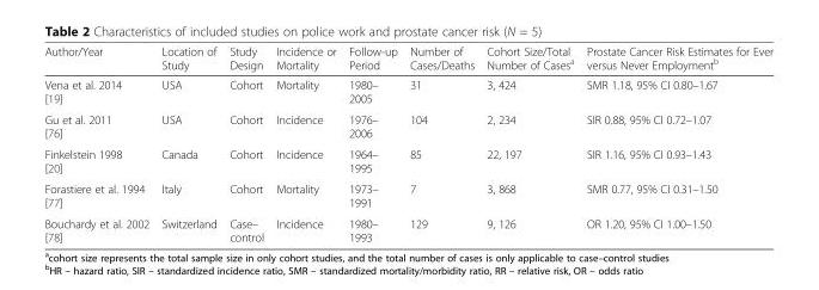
<table><thead><tr><td>Author/Year</td><td>Location of Study</td><td>Study Design</td><td>Incidence or Mortality</td><td>Follow-up Period</td><td>Number of Cases/Deaths</td><td>Cohort Size/Total Number of Cases<sup>a</sup></td><td>Prostate Cancer Risk Estimates for Ever versus Never Employment<sup>b</sup></td></tr></thead><tbody><tr><td>Vena et al. 2014 [19]</td><td>USA</td><td>Cohort</td><td>Mortality</td><td>1980– 2005</td><td>31</td><td>3, 424</td><td>SMR 1.18, 95% CI 0.80–1.67</td></tr><tr><td>Gu et al. 2011 [76]</td><td>USA</td><td>Cohort</td><td>Incidence</td><td>1976– 2006</td><td>104</td><td>2, 234</td><td>SIR 0.88, 95% CI 0.72–1.07</td></tr><tr><td>Finkelstein 1998 [20]</td><td>Canada</td><td>Cohort</td><td>Incidence</td><td>1964– 1995</td><td>85</td><td>22, 197</td><td>SIR 1.16, 95% CI 0.93–1.43</td></tr><tr><td>Forastiere et al. 1994 [77]</td><td>Italy</td><td>Cohort</td><td>Mortality</td><td>1973– 1991</td><td>7</td><td>3, 868</td><td>SMR 0.77, 95% CI 0.31–1.50</td></tr><tr><td>Bouchardy et al. 2002 [78]</td><td>Switzerland</td><td>Case– control</td><td>Incidence</td><td>1980– 1993</td><td>129</td><td>9, 126</td><td>OR 1.20, 95% CI 1.00–1.50</td></tr></tbody></table>